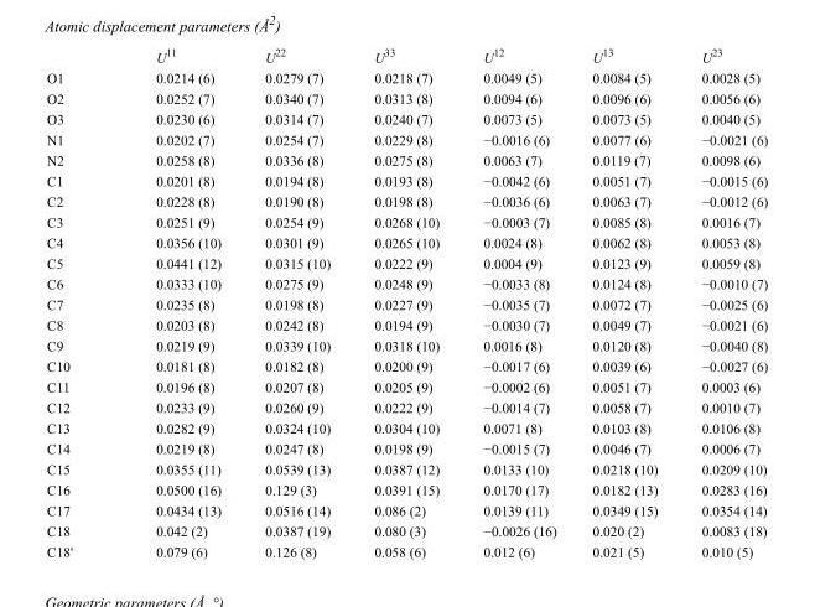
<table><thead><tr><td></td><td>U<sup>11</sup></td><td>U<sup>22</sup></td><td>U<sup>33</sup></td><td>U<sup>12</sup></td><td>U<sup>13</sup></td><td>U<sup>23</sup></td></tr></thead><tbody><tr><td>O1</td><td>0.0214 (6)</td><td>0.0279 (7)</td><td>0.0218 (7)</td><td>0.0049 (5)</td><td>0.0084 (5)</td><td>0.0028 (5)</td></tr><tr><td>O2</td><td>0.0252 (7)</td><td>0.0340 (7)</td><td>0.0313 (8)</td><td>0.0094 (6)</td><td>0.0096 (6)</td><td>0.0056 (6)</td></tr><tr><td>O3</td><td>0.0230 (6)</td><td>0.0314 (7)</td><td>0.0240 (7)</td><td>0.0073 (5)</td><td>0.0073 (5)</td><td>0.0040 (5)</td></tr><tr><td>N1</td><td>0.0202 (7)</td><td>0.0254 (7)</td><td>0.0229 (8)</td><td>−0.0016 (6)</td><td>0.0077 (6)</td><td>−0.0021 (6)</td></tr><tr><td>N2</td><td>0.0258 (8)</td><td>0.0336 (8)</td><td>0.0275 (8)</td><td>0.0063 (7)</td><td>0.0119 (7)</td><td>0.0098 (6)</td></tr><tr><td>C1</td><td>0.0201 (8)</td><td>0.0194 (8)</td><td>0.0193 (8)</td><td>−0.0042 (6)</td><td>0.0051 (7)</td><td>−0.0015 (6)</td></tr><tr><td>C2</td><td>0.0228 (8)</td><td>0.0190 (8)</td><td>0.0198 (8)</td><td>−0.0036 (6)</td><td>0.0063 (7)</td><td>−0.0012 (6)</td></tr><tr><td>C3</td><td>0.0251 (9)</td><td>0.0254 (9)</td><td>0.0268 (10)</td><td>−0.0003 (7)</td><td>0.0085 (8)</td><td>0.0016 (7)</td></tr><tr><td>C4</td><td>0.0356 (10)</td><td>0.0301 (9)</td><td>0.0265 (10)</td><td>0.0024 (8)</td><td>0.0062 (8)</td><td>0.0053 (8)</td></tr><tr><td>C5</td><td>0.0441 (12)</td><td>0.0315 (10)</td><td>0.0222 (9)</td><td>0.0004 (9)</td><td>0.0123 (9)</td><td>0.0059 (8)</td></tr><tr><td>C6</td><td>0.0333 (10)</td><td>0.0275 (9)</td><td>0.0248 (9)</td><td>−0.0033 (8)</td><td>0.0124 (8)</td><td>−0.0010 (7)</td></tr><tr><td>C7</td><td>0.0235 (8)</td><td>0.0198 (8)</td><td>0.0227 (9)</td><td>−0.0035 (7)</td><td>0.0072 (7)</td><td>−0.0025 (6)</td></tr><tr><td>C8</td><td>0.0203 (8)</td><td>0.0242 (8)</td><td>0.0194 (9)</td><td>−0.0030 (7)</td><td>0.0049 (7)</td><td>−0.0021 (6)</td></tr><tr><td>C9</td><td>0.0219 (9)</td><td>0.0339 (10)</td><td>0.0318 (10)</td><td>0.0016 (8)</td><td>0.0120 (8)</td><td>−0.0040 (8)</td></tr><tr><td>C10</td><td>0.0181 (8)</td><td>0.0182 (8)</td><td>0.0200 (9)</td><td>−0.0017 (6)</td><td>0.0039 (6)</td><td>−0.0027 (6)</td></tr><tr><td>C11</td><td>0.0196 (8)</td><td>0.0207 (8)</td><td>0.0205 (9)</td><td>−0.0002 (6)</td><td>0.0051 (7)</td><td>0.0003 (6)</td></tr><tr><td>C12</td><td>0.0233 (9)</td><td>0.0260 (9)</td><td>0.0222 (9)</td><td>−0.0014 (7)</td><td>0.0058 (7)</td><td>0.0010 (7)</td></tr><tr><td>C13</td><td>0.0282 (9)</td><td>0.0324 (10)</td><td>0.0304 (10)</td><td>0.0071 (8)</td><td>0.0103 (8)</td><td>0.0106 (8)</td></tr><tr><td>C14</td><td>0.0219 (8)</td><td>0.0247 (8)</td><td>0.0198 (9)</td><td>−0.0015 (7)</td><td>0.0046 (7)</td><td>0.0006 (7)</td></tr><tr><td>C15</td><td>0.0355 (11)</td><td>0.0539 (13)</td><td>0.0387 (12)</td><td>0.0133 (10)</td><td>0.0218 (10)</td><td>0.0209 (10)</td></tr><tr><td>C16</td><td>0.0500 (16)</td><td>0.129 (3)</td><td>0.0391 (15)</td><td>0.0170 (17)</td><td>0.0182 (13)</td><td>0.0283 (16)</td></tr><tr><td>C17</td><td>0.0434 (13)</td><td>0.0516 (14)</td><td>0.086 (2)</td><td>0.0139 (11)</td><td>0.0349 (15)</td><td>0.0354 (14)</td></tr><tr><td>C18</td><td>0.042 (2)</td><td>0.0387 (19)</td><td>0.080 (3)</td><td>−0.0026 (16)</td><td>0.020 (2)</td><td>0.0083 (18)</td></tr><tr><td>C18&#x27;</td><td>0.079 (6)</td><td>0.126 (8)</td><td>0.058 (6)</td><td>0.012 (6)</td><td>0.021 (5)</td><td>0.010 (5)</td></tr></tbody></table>